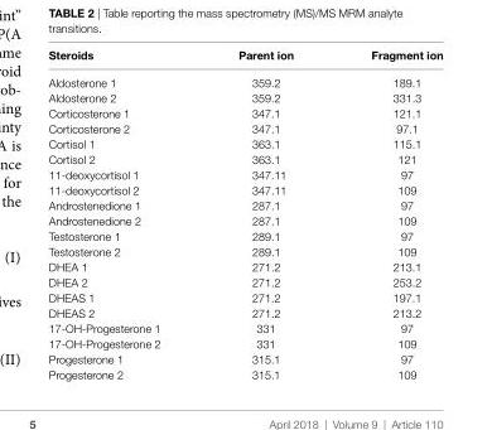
<table><thead><tr><td>steroids</td><td>Parent ion</td><td>Fragment ion</td></tr></thead><tbody><tr><td>Aldosterone 1</td><td>359.2</td><td>189.1</td></tr><tr><td>Aldosterone 2</td><td>359.2</td><td>331.3</td></tr><tr><td>Corticosterone 1</td><td>347.1</td><td>121.1</td></tr><tr><td>Corticosterone 2</td><td>347.1</td><td>97.1</td></tr><tr><td>Cortisol 1</td><td>363.1</td><td>115.1</td></tr><tr><td>Cortisol 2</td><td>363.1</td><td>121</td></tr><tr><td>11-deoxycortisol 1</td><td>347.11</td><td>97</td></tr><tr><td>11-deoxycortisol 2</td><td>347.11</td><td>109</td></tr><tr><td>Androstenedione 1</td><td>287.1</td><td>97</td></tr><tr><td>Androstenedione 2</td><td>287.1</td><td>109</td></tr><tr><td>Testosterone 1</td><td>289.1</td><td>97</td></tr><tr><td>Testosterone 2</td><td>289.1</td><td>109</td></tr><tr><td>DHEA 1</td><td>271.2</td><td>213.1</td></tr><tr><td>DHEA 2</td><td>271.2</td><td>253.2</td></tr><tr><td>DHEAS 1</td><td>271.2</td><td>197.1</td></tr><tr><td>DHEAS 2</td><td>271.2</td><td>213.2</td></tr><tr><td>17-OH-Progesterone 1</td><td>331</td><td>97</td></tr><tr><td>17-OH-Progesterone 2</td><td>331</td><td>109</td></tr><tr><td>Progesterone 1</td><td>315.1</td><td>97</td></tr><tr><td>Progesterone 2</td><td>315.1</td><td>109</td></tr></tbody></table>